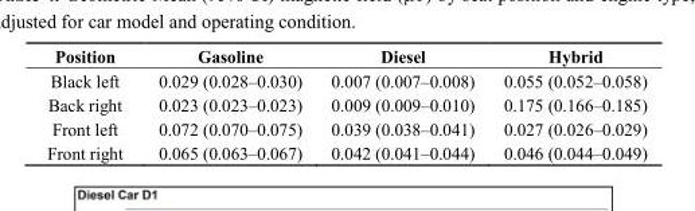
<table><thead><tr><td>Position</td><td>Gasoline</td><td>Diesel</td><td>Hybrid</td></tr></thead><tbody><tr><td>Black left</td><td>0.029 (0.028–0.030)</td><td>0.007 (0.007–0.008)</td><td>0.055 (0.052–0.058)</td></tr><tr><td>Back right</td><td>0.023 (0.023–0.023)</td><td>0.009 (0.009–0.010)</td><td>0.175 (0.166–0.185)</td></tr><tr><td>Front left</td><td>0.072 (0.070–0.075)</td><td>0.039 (0.038–0.041)</td><td>0.027 (0.026–0.029)</td></tr><tr><td>Front right</td><td>0.065 (0.063–0.067)</td><td>0.042 (0.041–0.044)</td><td>0.046 (0.044–0.049)</td></tr></tbody></table>